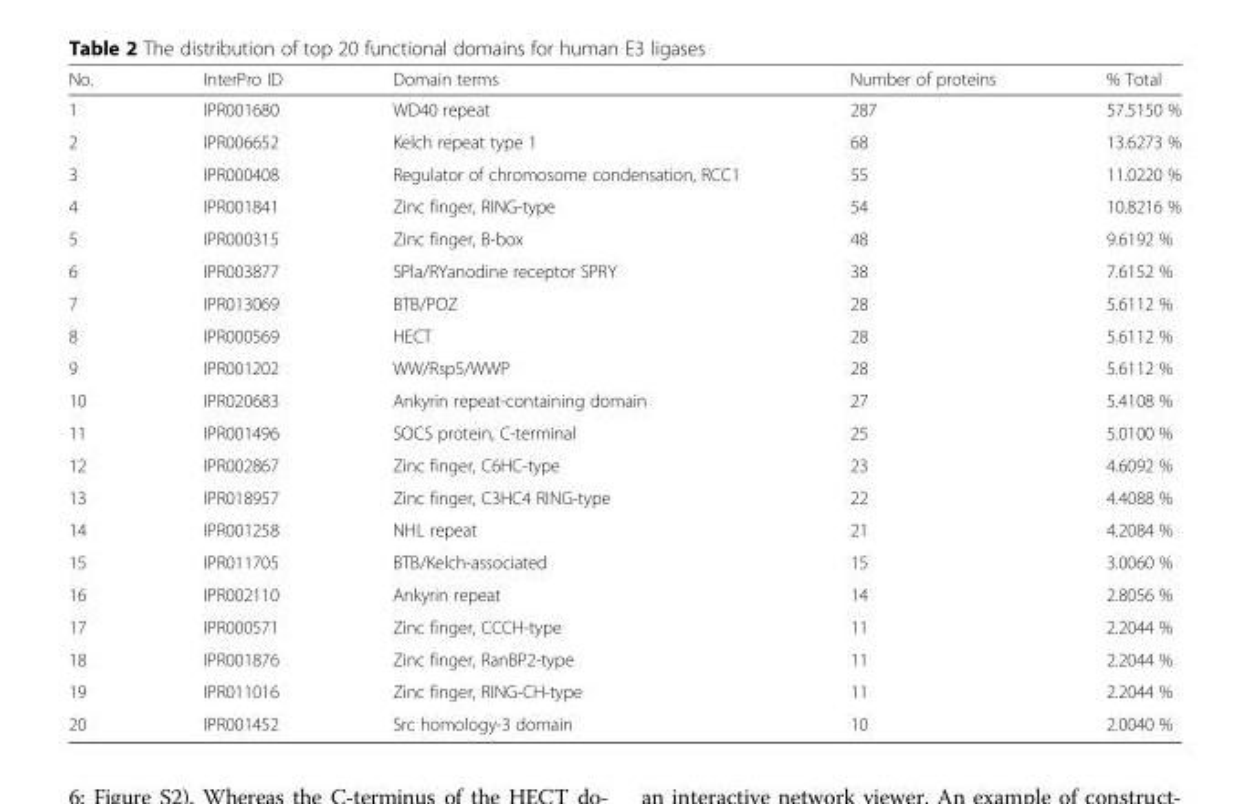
<table><thead><tr><td>No.</td><td>InterPro ID</td><td>Domain terms</td><td>Number of proteins</td><td>% Total</td></tr></thead><tbody><tr><td>1</td><td>IPR001680</td><td>WD40 repeat</td><td>287</td><td>57.5150 %</td></tr><tr><td>2</td><td>IPR006652</td><td>Kelch repeat type 1</td><td>68</td><td>13.6273 %</td></tr><tr><td>3</td><td>IPR000408</td><td>Regulator of chromosome condensation, RCC1</td><td>55</td><td>11.0220 %</td></tr><tr><td>4</td><td>IPR001841</td><td>Zinc finger, RING-type</td><td>54</td><td>10.8216 %</td></tr><tr><td>5</td><td>IPR000315</td><td>Zinc finger, B-box</td><td>48</td><td>9.6192 %</td></tr><tr><td>6</td><td>IPR003877</td><td>SPla/RYanodine receptor SPRY</td><td>38</td><td>7.6152 %</td></tr><tr><td>7</td><td>IPR013069</td><td>BTB/POZ</td><td>28</td><td>5.6112 %</td></tr><tr><td>8</td><td>IPR000569</td><td>HECT</td><td>28</td><td>5.6112 %</td></tr><tr><td>9</td><td>IPR001202</td><td>WW/Rsp5/WWP</td><td>28</td><td>5.6112 %</td></tr><tr><td>10</td><td>IPR020683</td><td>Ankyrin repeat-containing domain</td><td>27</td><td>5.4108 %</td></tr><tr><td>11</td><td>IPR001496</td><td>SOCS protein, C-terminal</td><td>25</td><td>5.0100 %</td></tr><tr><td>12</td><td>IPR002867</td><td>Zinc finger, C6HC-type</td><td>23</td><td>4.6092 %</td></tr><tr><td>13</td><td>IPR018957</td><td>Zinc finger, C3HC4 RING-type</td><td>22</td><td>4.4088 %</td></tr><tr><td>14</td><td>IPR001258</td><td>NHL repeat</td><td>21</td><td>4.2084 %</td></tr><tr><td>15</td><td>IPR011705</td><td>BTB/Kelch-associated</td><td>15</td><td>3.0060 %</td></tr><tr><td>16</td><td>IPR002110</td><td>Ankyrin repeat</td><td>14</td><td>2.8056 %</td></tr><tr><td>17</td><td>IPR000571</td><td>Zinc finger, CCCH-type</td><td>11</td><td>2.2044 %</td></tr><tr><td>18</td><td>IPR001876</td><td>Zinc finger, RanBP2-type</td><td>11</td><td>2.2044 %</td></tr><tr><td>19</td><td>IPR011016</td><td>Zinc finger, RING-CH-type</td><td>11</td><td>2.2044 %</td></tr><tr><td>20</td><td>IPR001452</td><td>Src homology-3 domain</td><td>10</td><td>2.0040 %</td></tr></tbody></table>